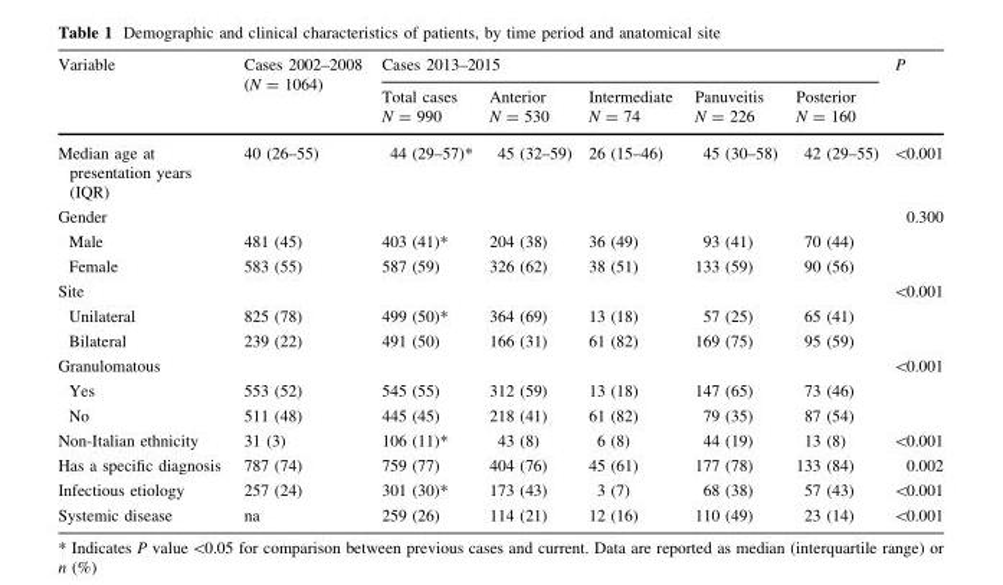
<table><thead><tr><td rowspan="2">Variable</td><td rowspan="2">Cases 2002–2008 (N = 1064)</td><td colspan="5">Cases 2013–2015</td><td rowspan="2">P</td></tr><tr><td>Total cases N = 990</td><td>Anterior N = 530</td><td>Intermediate N = 74</td><td>Panuveitis N = 226</td><td>Posterior N = 160</td></tr></thead><tbody><tr><td>Median age at presentation years (IQR)</td><td>40 (26–55)</td><td>44 (29–57)*</td><td>45 (32–59)</td><td>26 (15–46)</td><td>45 (30–58)</td><td>42 (29–55)</td><td>&lt;0.001</td></tr><tr><td>Gender</td><td></td><td></td><td></td><td></td><td></td><td></td><td>0.300</td></tr><tr><td>Male</td><td>481 (45)</td><td>403 (41)*</td><td>204 (38)</td><td>36 (49)</td><td>93 (41)</td><td>70 (44)</td><td></td></tr><tr><td>Female</td><td>583 (55)</td><td>587 (59)</td><td>326 (62)</td><td>38 (51)</td><td>133 (59)</td><td>90 (56)</td><td></td></tr><tr><td>Site</td><td></td><td></td><td></td><td></td><td></td><td></td><td>&lt;0.001</td></tr><tr><td>Unilateral</td><td>825 (78)</td><td>499 (50)*</td><td>364 (69)</td><td>13 (18)</td><td>57 (25)</td><td>65 (41)</td><td></td></tr><tr><td>Bilateral</td><td>239 (22)</td><td>491 (50)</td><td>166 (31)</td><td>61 (82)</td><td>169 (75)</td><td>95 (59)</td><td></td></tr><tr><td>Granulomatous</td><td></td><td></td><td></td><td></td><td></td><td></td><td>&lt;0.001</td></tr><tr><td>Yes</td><td>553 (52)</td><td>545 (55)</td><td>312 (59)</td><td>13 (18)</td><td>147 (65)</td><td>73 (46)</td><td></td></tr><tr><td>No</td><td>511 (48)</td><td>445 (45)</td><td>218 (41)</td><td>61 (82)</td><td>79 (35)</td><td>87 (54)</td><td></td></tr><tr><td>Non-Italian ethnicity</td><td>31 (3)</td><td>106 (11)*</td><td>43 (8)</td><td>6 (8)</td><td>44 (19)</td><td>13 (8)</td><td>&lt;0.001</td></tr><tr><td>Has a specific diagnosis</td><td>787 (74)</td><td>759 (77)</td><td>404 (76)</td><td>45 (61)</td><td>177 (78)</td><td>133 (84)</td><td>0.002</td></tr><tr><td>Infectious etiology</td><td>257 (24)</td><td>301 (30)*</td><td>173 (43)</td><td>3 (7)</td><td>68 (38)</td><td>57 (43)</td><td>&lt;0.001</td></tr><tr><td>Systemic disease</td><td>na</td><td>259 (26)</td><td>114 (21)</td><td>12 (16)</td><td>110 (49)</td><td>23 (14)</td><td>&lt;0.001</td></tr></tbody></table>